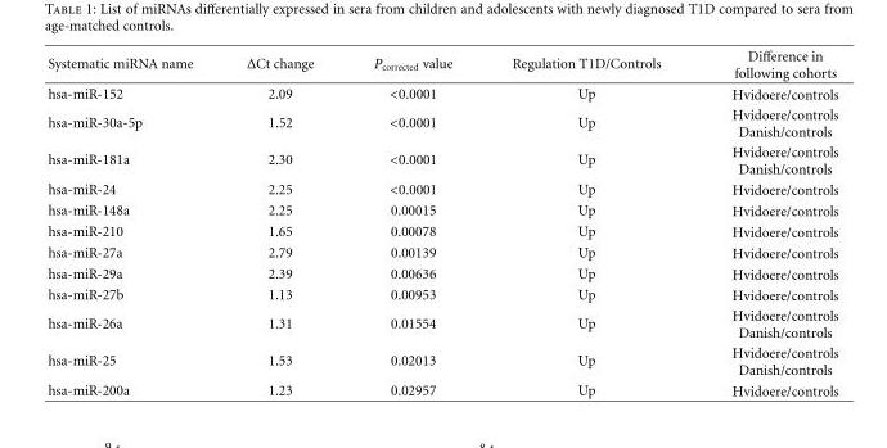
<table><thead><tr><td>Systematic miRNA name</td><td>ΔCt change</td><td>P<sub>corrected</sub> value</td><td>Regulation T1D/Controls</td><td>Difference in following cohorts</td></tr></thead><tbody><tr><td>hsa-miR-152</td><td>2.09</td><td>&lt;0.0001</td><td>Up</td><td>Hvidoere/controls</td></tr><tr><td>hsa-miR-30a-5p</td><td>1.52</td><td>&lt;0.0001</td><td>Up</td><td>Hvidoere/controls Danish/controls</td></tr><tr><td>hsa-miR-181a</td><td>2.30</td><td>&lt;0.0001</td><td>Up</td><td>Hvidoere/controls Danish/controls</td></tr><tr><td>hsa-miR-24</td><td>2.25</td><td>&lt;0.0001</td><td>Up</td><td>Hvidoere/controls</td></tr><tr><td>hsa-miR-148a</td><td>2.25</td><td>0.00015</td><td>Up</td><td>Hvidoere/controls</td></tr><tr><td>hsa-miR-210</td><td>1.65</td><td>0.00078</td><td>Up</td><td>Hvidoere/controls</td></tr><tr><td>hsa-miR-27a</td><td>2.79</td><td>0.00139</td><td>Up</td><td>Hvidoere/controls</td></tr><tr><td>hsa-miR-29a</td><td>2.39</td><td>0.00636</td><td>Up</td><td>Hvidoere/controls</td></tr><tr><td>hsa-miR-27b</td><td>1.13</td><td>0.00953</td><td>Up</td><td>Hvidoere/controls</td></tr><tr><td>hsa-miR-26a</td><td>1.31</td><td>0.01554</td><td>Up</td><td>Hvidoere/controls Danish/controls</td></tr><tr><td>hsa-miR-25</td><td>1.53</td><td>0.02013</td><td>Up</td><td>Hvidoere/controls Danish/controls</td></tr><tr><td>hsa-miR-200a</td><td>1.23</td><td>0.02957</td><td>Up</td><td>Hvidoere/controls</td></tr></tbody></table>